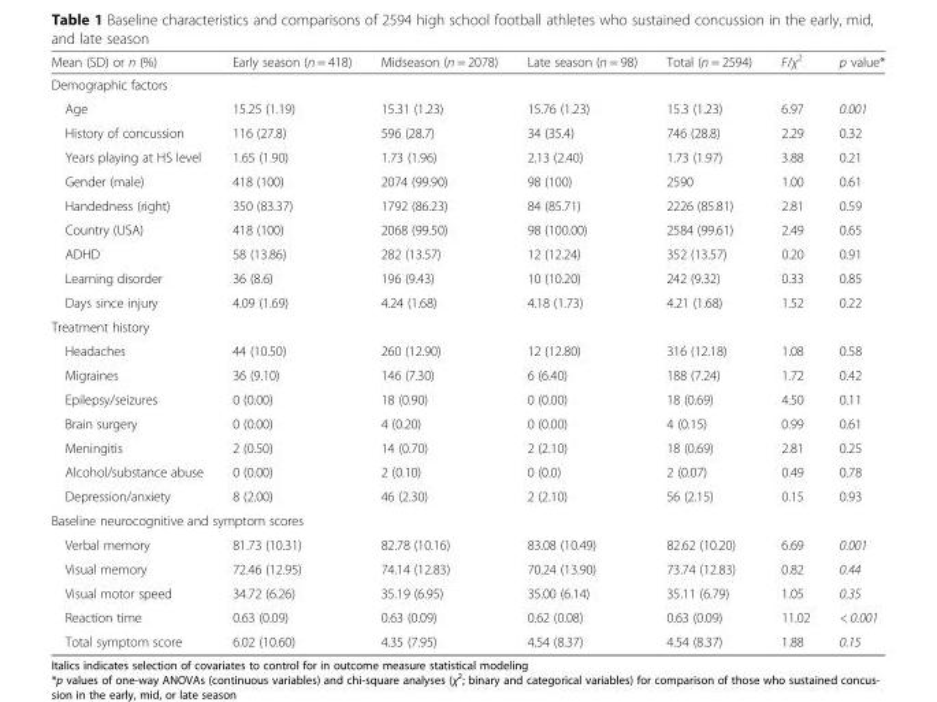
<table><thead><tr><td>Mean (SD) or n (%)</td><td>Early season (n = 418)</td><td>Midseason (n = 2078)</td><td>Late season (n = 98)</td><td>Total (n = 2594)</td><td>F/χ<sup>2</sup></td><td>p value*</td></tr></thead><tbody><tr><td colspan="7">Demographic factors</td></tr><tr><td>Age</td><td>15.25 (1.19)</td><td>15.31 (1.23)</td><td>15.76 (1.23)</td><td>15.3 (1.23)</td><td>6.97</td><td>0.001</td></tr><tr><td>History of concussion</td><td>116 (27.8)</td><td>596 (28.7)</td><td>34 (35.4)</td><td>746 (28.8)</td><td>2.29</td><td>0.32</td></tr><tr><td>Years playing at HS level</td><td>1.65 (1.90)</td><td>1.73 (1.96)</td><td>2.13 (2.40)</td><td>1.73 (1.97)</td><td>3.88</td><td>0.21</td></tr><tr><td>Gender (male)</td><td>418 (100)</td><td>2074 (99.90)</td><td>98 (100)</td><td>2590</td><td>1.00</td><td>0.61</td></tr><tr><td>Handedness (right)</td><td>350 (83.37)</td><td>1792 (86.23)</td><td>84 (85.71)</td><td>2226 (85.81)</td><td>2.81</td><td>0.59</td></tr><tr><td>Country (USA)</td><td>418 (100)</td><td>2068 (99.50)</td><td>98 (100.00)</td><td>2584 (99.61)</td><td>2.49</td><td>0.65</td></tr><tr><td>ADHD</td><td>58 (13.86)</td><td>282 (13.57)</td><td>12 (12.24)</td><td>352 (13.57)</td><td>0.20</td><td>0.91</td></tr><tr><td>Learning disorder</td><td>36 (8.6)</td><td>196 (9.43)</td><td>10 (10.20)</td><td>242 (9.32)</td><td>0.33</td><td>0.85</td></tr><tr><td>Days since injury</td><td>4.09 (1.69)</td><td>4.24 (1.68)</td><td>4.18 (1.73)</td><td>4.21 (1.68)</td><td>1.52</td><td>0.22</td></tr><tr><td colspan="7">Treatment history</td></tr><tr><td>Headaches</td><td>44 (10.50)</td><td>260 (12.90)</td><td>12 (12.80)</td><td>316 (12.18)</td><td>1.08</td><td>0.58</td></tr><tr><td>Migraines</td><td>36 (9.10)</td><td>146 (7.30)</td><td>6 (6.40)</td><td>188 (7.24)</td><td>1.72</td><td>0.42</td></tr><tr><td>Epilepsy/seizures</td><td>0 (0.00)</td><td>18 (0.90)</td><td>0 (0.00)</td><td>18 (0.69)</td><td>4.50</td><td>0.11</td></tr><tr><td>Brain surgery</td><td>0 (0.00)</td><td>4 (0.20)</td><td>0 (0.00)</td><td>4 (0.15)</td><td>0.99</td><td>0.61</td></tr><tr><td>Meningitis</td><td>2 (0.50)</td><td>14 (0.70)</td><td>2 (2.10)</td><td>18 (0.69)</td><td>2.81</td><td>0.25</td></tr><tr><td>Alcohol/substance abuse</td><td>0 (0.00)</td><td>2 (0.10)</td><td>0 (0.0)</td><td>2 (0.07)</td><td>0.49</td><td>0.78</td></tr><tr><td>Depression/anxiety</td><td>8 (2.00)</td><td>46 (2.30)</td><td>2 (2.10)</td><td>56 (2.15)</td><td>0.15</td><td>0.93</td></tr><tr><td colspan="7">Baseline neurocognitive and symptom scores</td></tr><tr><td>Verbal memory</td><td>81.73 (10.31)</td><td>82.78 (10.16)</td><td>83.08 (10.49)</td><td>82.62 (10.20)</td><td>6.69</td><td>0.001</td></tr><tr><td>Visual memory</td><td>72.46 (12.95)</td><td>74.14 (12.83)</td><td>70.24 (13.90)</td><td>73.74 (12.83)</td><td>0.82</td><td>0.44</td></tr><tr><td>Visual motor speed</td><td>34.72 (6.26)</td><td>35.19 (6.95)</td><td>35.00 (6.14)</td><td>35.11 (6.79)</td><td>1.05</td><td>0.35</td></tr><tr><td>Reaction time</td><td>0.63 (0.09)</td><td>0.63 (0.09)</td><td>0.62 (0.08)</td><td>0.63 (0.09)</td><td>11.02</td><td>&lt; 0.001</td></tr><tr><td>Total symptom score</td><td>6.02 (10.60)</td><td>4.35 (7.95)</td><td>4.54 (8.37)</td><td>4.54 (8.37)</td><td>1.88</td><td>0.15</td></tr></tbody></table>